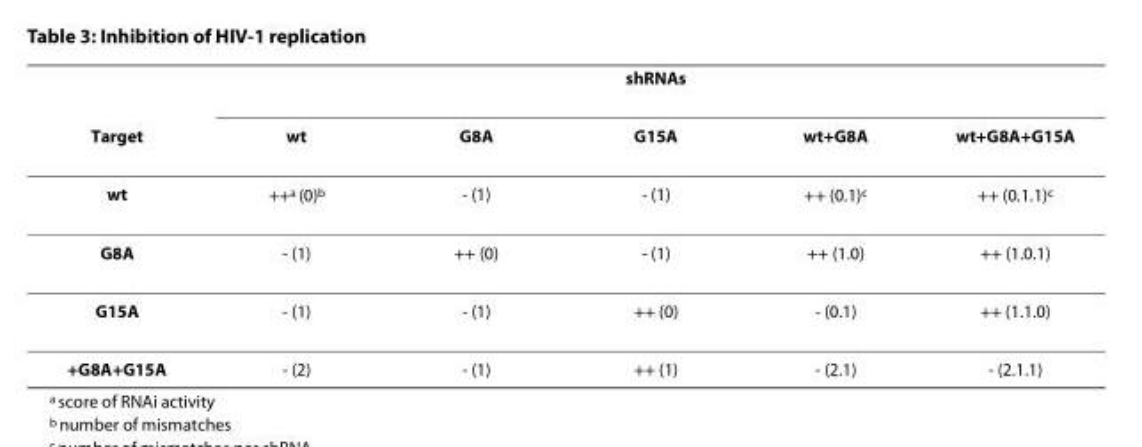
<table><thead><tr><td rowspan="2">Target</td><td colspan="5">shRNAs</td></tr><tr><td>wt</td><td>G8A</td><td>G15A</td><td>wt+G8A</td><td>wt+G8A+G15A</td></tr></thead><tbody><tr><td>wt</td><td>++<sup>a</sup> (0)<sup>b</sup></td><td>- (1)</td><td>- (1)</td><td>++ (0.1)<sup>c</sup></td><td>++ (0.1.1)<sup>c</sup></td></tr><tr><td>G8A</td><td>- (1)</td><td>++ (0)</td><td>- (1)</td><td>++ (1.0)</td><td>++ (1.0.1)</td></tr><tr><td>G15A</td><td>- (1)</td><td>- (1)</td><td>++ (0)</td><td>- (0.1)</td><td>++ (1.1.0)</td></tr><tr><td>+G8A+G15A</td><td>- (2)</td><td>- (1)</td><td>++ (1)</td><td>- (2.1)</td><td>- (2.1.1)</td></tr></tbody></table>